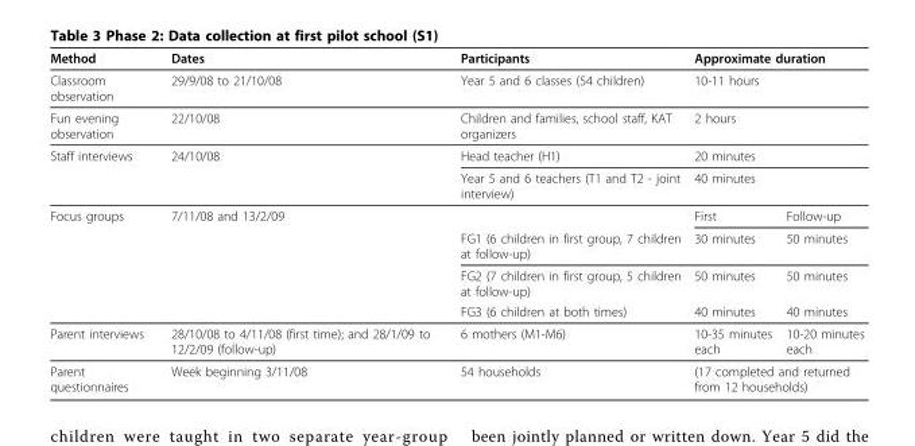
<table><thead><tr><td>Method</td><td>Dates</td><td>Participants</td><td colspan="2">Approximate duration</td></tr></thead><tbody><tr><td>Classroom observation</td><td>29/9/08 to 21/10/08</td><td>Year 5 and 6 classes (54 children)</td><td colspan="2">10-11 hours</td></tr><tr><td>Fun evening observation</td><td>22/10/08</td><td>Children and families, school staff, KAT organizers</td><td colspan="2">2 hours</td></tr><tr><td rowspan="2">Staff interviews</td><td>24/10/08</td><td>Head teacher (H1)</td><td colspan="2">20 minutes</td></tr><tr><td></td><td>Year 5 and 6 teachers (T1 and T2 - joint interview)</td><td colspan="2">40 minutes</td></tr><tr><td rowspan="4">Focus groups</td><td>7/11/08 and 13/2/09</td><td></td><td>First</td><td>Follow-up</td></tr><tr><td></td><td>FG1 (6 children in first group, 7 children at follow-up)</td><td>30 minutes</td><td>50 minutes</td></tr><tr><td></td><td>FG2 (7 children in first group, 5 children at follow-up)</td><td>50 minutes</td><td>50 minutes</td></tr><tr><td></td><td>FG3 (6 children at both times)</td><td>40 minutes</td><td>40 minutes</td></tr><tr><td>Parent interviews</td><td>28/10/08 to 4/11/08 (first time); and 28/1/09 to 12/2/09 (follow-up)</td><td>6 mothers (M1-M6)</td><td>10-35 minutes each</td><td>10-20 minutes each</td></tr><tr><td>Parent questionnaires</td><td>Week beginning 3/11/08</td><td>54 households</td><td colspan="2">(17 completed and returned from 12 households)</td></tr></tbody></table>